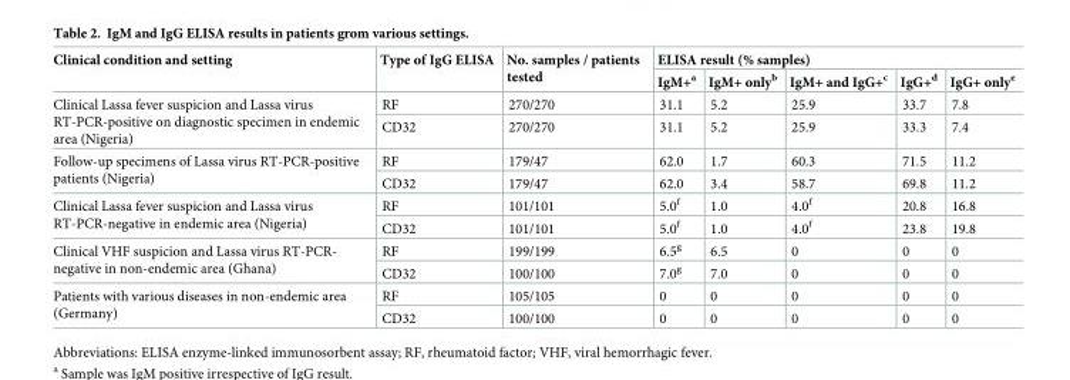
<table><thead><tr><td rowspan="2">Clinical condition and setting</td><td rowspan="2">Type of IgG ELISA</td><td rowspan="2">No. samples / patients tested</td><td colspan="5">ELISA result (% samples)</td></tr><tr><td>IgM+<sup>a</sup></td><td>IgM+ only<sup>b</sup></td><td>IgM+ and IgG+<sup>c</sup></td><td>IgG+<sup>d</sup></td><td>IgG+ only<sup>e</sup></td></tr></thead><tbody><tr><td rowspan="2">Clinical Lassa fever suspicion and Lassa virus RT-PCR-positive on diagnostic specimen in endemic area (Nigeria)</td><td>RF</td><td>270/270</td><td>31.1</td><td>5.2</td><td>25.9</td><td>33.7</td><td>7.8</td></tr><tr><td>CD32</td><td>270/270</td><td>31.1</td><td>5.2</td><td>25.9</td><td>33.3</td><td>7.4</td></tr><tr><td rowspan="2">Follow-up specimens of Lassa virus RT-PCR-positive patients (Nigeria)</td><td>RF</td><td>179/47</td><td>62.0</td><td>1.7</td><td>60.3</td><td>71.5</td><td>11.2</td></tr><tr><td>CD32</td><td>179/47</td><td>62.0</td><td>3.4</td><td>58.7</td><td>69.8</td><td>11.2</td></tr><tr><td rowspan="2">Clinical Lassa fever suspicion and Lassa virus RT-PCR-negative in endemic area (Nigeria)</td><td>RF</td><td>101/101</td><td>5.0<sup>f</sup></td><td>1.0</td><td>4.0<sup>f</sup></td><td>20.8</td><td>16.8</td></tr><tr><td>CD32</td><td>101/101</td><td>5.0<sup>f</sup></td><td>1.0</td><td>4.0<sup>f</sup></td><td>23.8</td><td>19.8</td></tr><tr><td rowspan="2">Clinical VHF suspicion and Lassa virus RT-PCR- negative in non-endemic area (Ghana)</td><td>RF</td><td>199/199</td><td>6.5<sup>g</sup></td><td>6.5</td><td>0</td><td>0</td><td>0</td></tr><tr><td>CD32</td><td>100/100</td><td>7.0<sup>g</sup></td><td>7.0</td><td>0</td><td>0</td><td>0</td></tr><tr><td rowspan="2">Patients with various diseases in non-endemic area (Germany)</td><td>RF</td><td>105/105</td><td>0</td><td>0</td><td>0</td><td>0</td><td>0</td></tr><tr><td>CD32</td><td>100/100</td><td>0</td><td>0</td><td>0</td><td>0</td><td>0</td></tr></tbody></table>